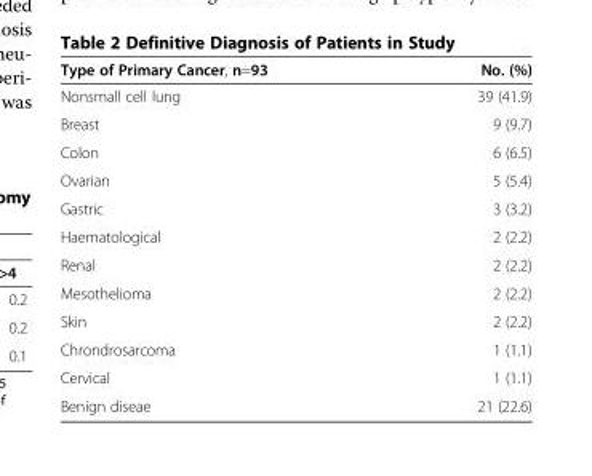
<table><thead><tr><td>Type of Primary Cancer, n=93</td><td>No. (%)</td></tr></thead><tbody><tr><td>Nonsmall cell lung</td><td>39 (41.9)</td></tr><tr><td>Breast</td><td>9 (9.7)</td></tr><tr><td>Colon</td><td>6 (6.5)</td></tr><tr><td>Ovarian</td><td>5 (5.4)</td></tr><tr><td>Gastric</td><td>3 (3.2)</td></tr><tr><td>Haematological</td><td>2 (2.2)</td></tr><tr><td>Renal</td><td>2 (2.2)</td></tr><tr><td>Mesothelioma</td><td>2 (2.2)</td></tr><tr><td>Skin</td><td>2 (2.2)</td></tr><tr><td>Chrondrosarcoma</td><td>1 (1.1)</td></tr><tr><td>Cervical</td><td>1 (1.1)</td></tr><tr><td>Benign diseae</td><td>21 (22.6)</td></tr></tbody></table>